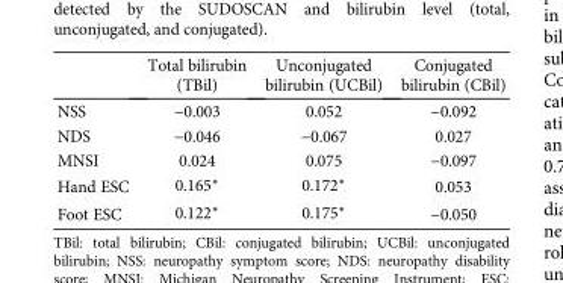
<table><thead><tr><td></td><td>Total bilirubin (TBil)</td><td>Unconjugated bilirubin (UCBil)</td><td>Conjugated bilirubin (CBil)</td></tr></thead><tbody><tr><td>NSS</td><td>−0.003</td><td>0.052</td><td>−0.092</td></tr><tr><td>NDS</td><td>−0.046</td><td>−0.067</td><td>0.027</td></tr><tr><td>MNSI</td><td>0.024</td><td>0.075</td><td>−0.097</td></tr><tr><td>Hand ESC</td><td>0.165∗</td><td>0.172∗</td><td>0.053</td></tr><tr><td>Foot ESC</td><td>0.122∗</td><td>0.175∗</td><td>−0.050</td></tr></tbody></table>